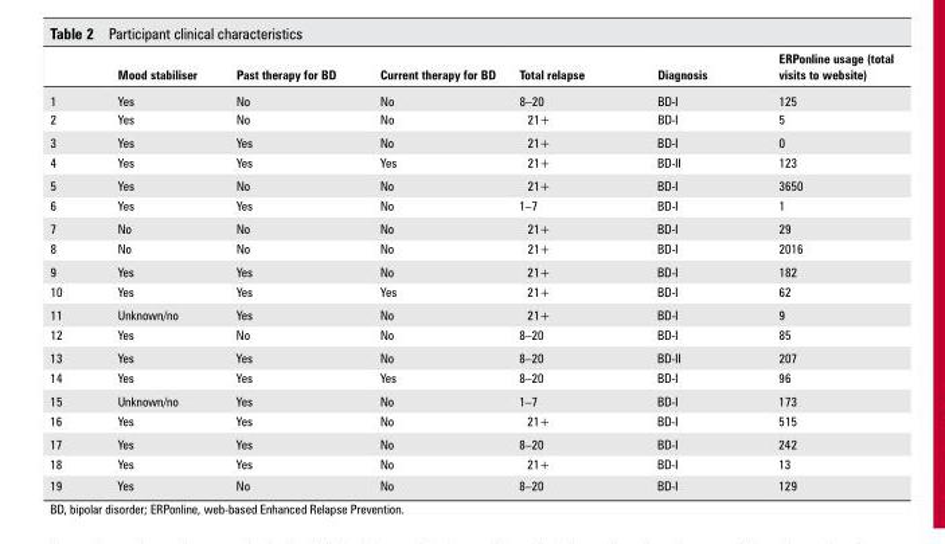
<table><thead><tr><td></td><td>Mood stabiliser</td><td>Past therapy for Bd</td><td>Current therapy for Bd</td><td>Total relapse</td><td>diagnosis</td><td>eRPonline usage (total visits to website)</td></tr></thead><tbody><tr><td>1</td><td>Yes</td><td>No</td><td>No</td><td>8–20</td><td>BD-I</td><td>125</td></tr><tr><td>2</td><td>Yes</td><td>No</td><td>No</td><td>21+</td><td>BD-I</td><td>5</td></tr><tr><td>3</td><td>Yes</td><td>Yes</td><td>No</td><td>21+</td><td>BD-I</td><td>0</td></tr><tr><td>4</td><td>Yes</td><td>Yes</td><td>Yes</td><td>21+</td><td>BD-II</td><td>123</td></tr><tr><td>5</td><td>Yes</td><td>No</td><td>No</td><td>21+</td><td>BD-I</td><td>3650</td></tr><tr><td>6</td><td>Yes</td><td>Yes</td><td>No</td><td>1–7</td><td>BD-I</td><td>1</td></tr><tr><td>7</td><td>No</td><td>No</td><td>No</td><td>21+</td><td>BD-I</td><td>29</td></tr><tr><td>8</td><td>No</td><td>No</td><td>No</td><td>21+</td><td>BD-I</td><td>2016</td></tr><tr><td>9</td><td>Yes</td><td>Yes</td><td>No</td><td>21+</td><td>BD-I</td><td>182</td></tr><tr><td>10</td><td>Yes</td><td>Yes</td><td>Yes</td><td>21+</td><td>BD-I</td><td>62</td></tr><tr><td>11</td><td>Unknown/no</td><td>Yes</td><td>No</td><td>21+</td><td>BD-I</td><td>9</td></tr><tr><td>12</td><td>Yes</td><td>No</td><td>No</td><td>8–20</td><td>BD-I</td><td>85</td></tr><tr><td>13</td><td>Yes</td><td>Yes</td><td>No</td><td>8–20</td><td>BD-II</td><td>207</td></tr><tr><td>14</td><td>Yes</td><td>Yes</td><td>Yes</td><td>8–20</td><td>BD-I</td><td>96</td></tr><tr><td>15</td><td>Unknown/no</td><td>Yes</td><td>No</td><td>1–7</td><td>BD-I</td><td>173</td></tr><tr><td>16</td><td>Yes</td><td>Yes</td><td>No</td><td>21+</td><td>BD-I</td><td>515</td></tr><tr><td>17</td><td>Yes</td><td>Yes</td><td>No</td><td>8–20</td><td>BD-I</td><td>242</td></tr><tr><td>18</td><td>Yes</td><td>Yes</td><td>No</td><td>21+</td><td>BD-I</td><td>13</td></tr><tr><td>19</td><td>Yes</td><td>No</td><td>No</td><td>8–20</td><td>BD-I</td><td>129</td></tr></tbody></table>